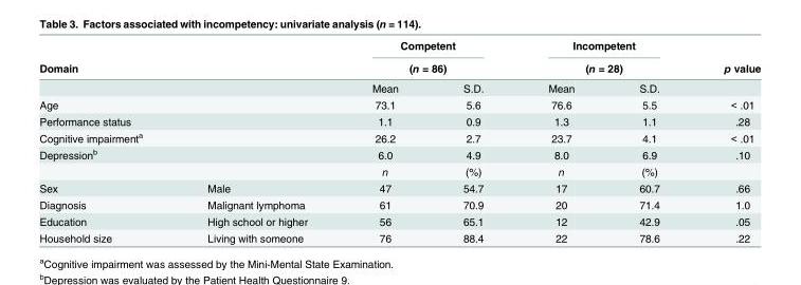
<table><thead><tr><td rowspan="3">Domain</td><td rowspan="3"></td><td rowspan="2" colspan="2">Competent (n = 86)</td><td rowspan="2" colspan="2">Incompetent (n = 28)</td><td rowspan="3">p value</td></tr><tr></tr><tr><td>Mean</td><td>S.D.</td><td>Mean</td><td>S.D.</td></tr></thead><tbody><tr><td>Age</td><td></td><td>73.1</td><td>5.6</td><td>76.6</td><td>5.5</td><td>&lt; .01</td></tr><tr><td>Performance status</td><td></td><td>1.1</td><td>0.9</td><td>1.3</td><td>1.1</td><td>.28</td></tr><tr><td>Cognitive impairment<sup>a</sup></td><td></td><td>26.2</td><td>2.7</td><td>23.7</td><td>4.1</td><td>&lt; .01</td></tr><tr><td rowspan="2">Depression<sup>b</sup></td><td></td><td>6.0</td><td>4.9</td><td>8.0</td><td>6.9</td><td>.10</td></tr><tr><td></td><td>n</td><td>(%)</td><td>n</td><td>(%)</td><td></td></tr><tr><td>Sex</td><td>Male</td><td>47</td><td>54.7</td><td>17</td><td>60.7</td><td>.66</td></tr><tr><td>Diagnosis</td><td>Malignant lymphoma</td><td>61</td><td>70.9</td><td>20</td><td>71.4</td><td>1.0</td></tr><tr><td>Education</td><td>High school or higher</td><td>56</td><td>65.1</td><td>12</td><td>42.9</td><td>.05</td></tr><tr><td>Household size</td><td>Living with someone</td><td>76</td><td>88.4</td><td>22</td><td>78.6</td><td>.22</td></tr></tbody></table>